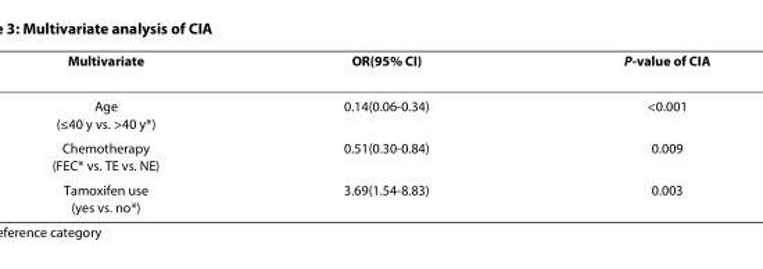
<table><thead><tr><td>Multivariate</td><td>OR(95% CI)</td><td>P-value of CIA</td></tr></thead><tbody><tr><td>Age (≤40 y vs. &gt;40 y*)</td><td>0.14(0.06-0.34)</td><td>&lt;0.001</td></tr><tr><td>Chemotherapy (FEC* vs. TE vs. NE)</td><td>0.51(0.30-0.84)</td><td>0.009</td></tr><tr><td>Tamoxifen use (yes vs. no*)</td><td>3.69(1.54-8.83)</td><td>0.003</td></tr></tbody></table>